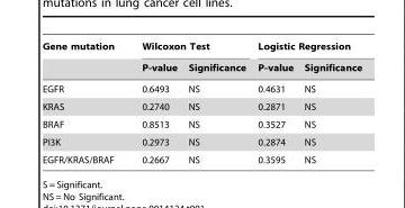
<table><thead><tr><td rowspan="2">Gene mutation</td><td colspan="2">Wilcoxon Test</td><td colspan="2">Logistic Regression</td></tr><tr><td>P-value</td><td>Significance</td><td>P-value</td><td>Significance</td></tr></thead><tbody><tr><td>EGFR</td><td>0.6493</td><td>NS</td><td>0.4631</td><td>NS</td></tr><tr><td>KRAS</td><td>0.2740</td><td>NS</td><td>0.2871</td><td>NS</td></tr><tr><td>BRAF</td><td>0.8513</td><td>NS</td><td>0.3527</td><td>NS</td></tr><tr><td>PI3K</td><td>0.2973</td><td>NS</td><td>0.2874</td><td>NS</td></tr><tr><td>EGFR/KRAS/BRAF</td><td>0.2667</td><td>NS</td><td>0.3595</td><td>NS</td></tr></tbody></table>